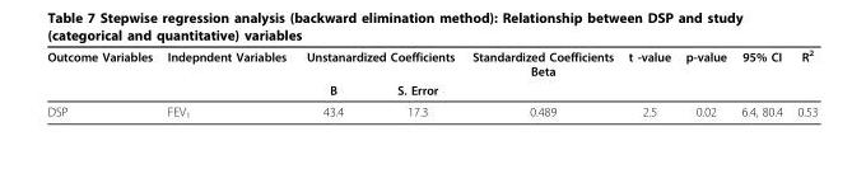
<table><thead><tr><td rowspan="2">Outcome Variables</td><td rowspan="2">Indepndent Variables</td><td colspan="2">Unstanardized Coefficients</td><td rowspan="2">Standardized Coefficients Beta</td><td rowspan="2">t -value</td><td rowspan="2">p-value</td><td rowspan="2">95% CI</td><td rowspan="2">R<sup>2</sup></td></tr><tr><td>B</td><td>S. Error</td></tr></thead><tbody><tr><td>DSP</td><td>FEV<sub>1</sub></td><td>43.4</td><td>17.3</td><td>0.489</td><td>2.5</td><td>0.02</td><td>6.4, 80.4</td><td>0.53</td></tr></tbody></table>